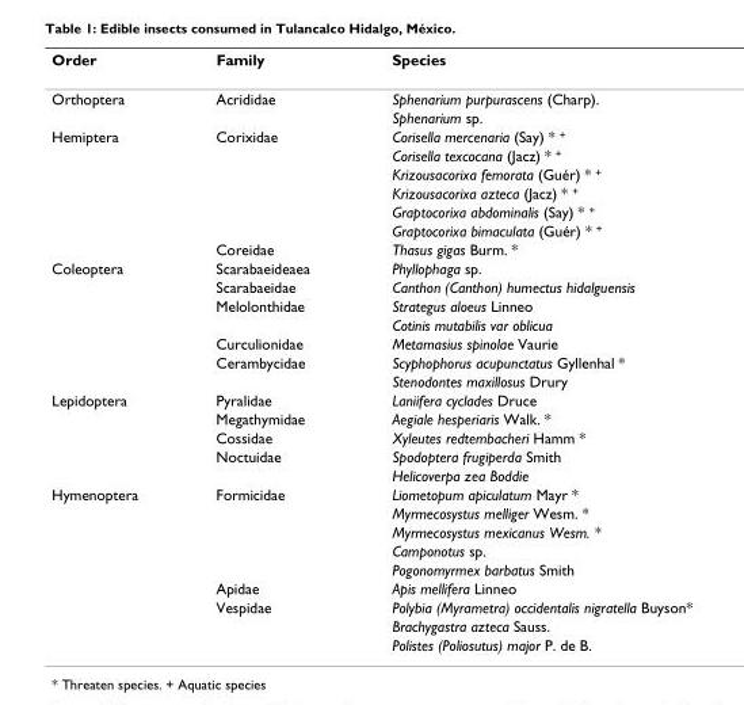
<table><thead><tr><td>Order</td><td>Family</td><td>Species</td></tr></thead><tbody><tr><td rowspan="2">Orthoptera</td><td>Acrididae</td><td>Sphenarium purpurascens (Charp).</td></tr><tr><td></td><td>Sphenarium sp.</td></tr><tr><td rowspan="7">Hemiptera</td><td>Corixidae</td><td>Corisella mercenaria (Say) * <sup>+</sup></td></tr><tr><td></td><td>Corisella texcocana (Jacz) * <sup>+</sup></td></tr><tr><td></td><td>Krizousacorixa femorata (Guér) * <sup>+</sup></td></tr><tr><td></td><td>Krizousacorixa azteca (Jacz) * <sup>+</sup></td></tr><tr><td></td><td>Graptocorixa abdominalis (Say) * <sup>+</sup></td></tr><tr><td></td><td>Graptocorixa bimaculata (Guér) * <sup>+</sup></td></tr><tr><td>Coreidae</td><td>Thasus gigas Burm. *</td></tr><tr><td rowspan="7">Coleoptera</td><td>Scarabaeideaea</td><td>Phyllophaga sp.</td></tr><tr><td>Scarabaeidae</td><td>Canthon (Canthon) humectus hidalguensis</td></tr><tr><td>Melolonthidae</td><td>Strategus aloeus Linneo</td></tr><tr><td></td><td>Cotinis mutabilis var oblicua</td></tr><tr><td>Curculionidae</td><td>Metamasius spinolae Vaurie</td></tr><tr><td>Cerambycidae</td><td>Scyphophorus acupunctatus Gyllenhal *</td></tr><tr><td></td><td>Stenodontes maxillosus Drury</td></tr><tr><td rowspan="5">Lepidoptera</td><td>Pyralidae</td><td>Laniifera cyclades Druce</td></tr><tr><td>Megathymidae</td><td>Aegiale hesperiaris Walk. *</td></tr><tr><td>Cossidae</td><td>Xyleutes redtembacheri Hamm *</td></tr><tr><td>Noctuidae</td><td>Spodoptera frugiperda Smith</td></tr><tr><td></td><td>Helicoverpa zea Boddie</td></tr><tr><td rowspan="9">Hymenoptera</td><td>Formicidae</td><td>Liometopum apiculatum Mayr *</td></tr><tr><td></td><td>Myrmecosystus melliger Wesm. *</td></tr><tr><td></td><td>Myrmecosystus mexicanus Wesm. *</td></tr><tr><td></td><td>Camponotus sp.</td></tr><tr><td></td><td>Pogonomyrmex barbatus Smith</td></tr><tr><td>Apidae</td><td>Apis mellifera Linneo</td></tr><tr><td>Vespidae</td><td>Polybia (Myrametra) occidentalis nigratella Buyson*</td></tr><tr><td></td><td>Brachygastra azteca Sauss.</td></tr><tr><td></td><td>Polistes (Poliosutus) major P. de B.</td></tr></tbody></table>